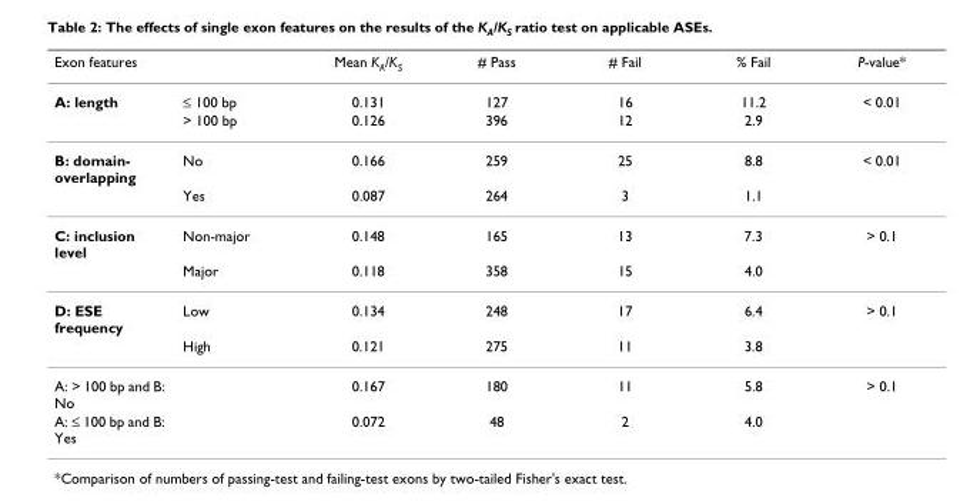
<table><thead><tr><td>Exon features</td><td></td><td>Mean KA/KS</td><td># Pass</td><td># Fail</td><td>% Fail</td><td>P-value*</td></tr></thead><tbody><tr><td rowspan="2">A: length</td><td>≤ 100 bp</td><td>0.131</td><td>127</td><td>16</td><td>11.2</td><td>&lt; 0.01</td></tr><tr><td>&gt; 100 bp</td><td>0.126</td><td>396</td><td>12</td><td>2.9</td><td></td></tr><tr><td rowspan="2">B: domain- overlapping</td><td>No</td><td>0.166</td><td>259</td><td>25</td><td>8.8</td><td>&lt; 0.01</td></tr><tr><td>Yes</td><td>0.087</td><td>264</td><td>3</td><td>1.1</td><td></td></tr><tr><td rowspan="2">C: inclusion level</td><td>Non-major</td><td>0.148</td><td>165</td><td>13</td><td>7.3</td><td>&gt; 0.1</td></tr><tr><td>Major</td><td>0.118</td><td>358</td><td>15</td><td>4.0</td><td></td></tr><tr><td rowspan="2">D: ESE frequency</td><td>Low</td><td>0.134</td><td>248</td><td>17</td><td>6.4</td><td>&gt; 0.1</td></tr><tr><td>High</td><td>0.121</td><td>275</td><td>11</td><td>3.8</td><td></td></tr><tr><td>A: &gt; 100 bp and B: No</td><td></td><td>0.167</td><td>180</td><td>11</td><td>5.8</td><td>&gt; 0.1</td></tr><tr><td>A: ≤ 100 bp and B: Yes</td><td></td><td>0.072</td><td>48</td><td>2</td><td>4.0</td><td></td></tr></tbody></table>